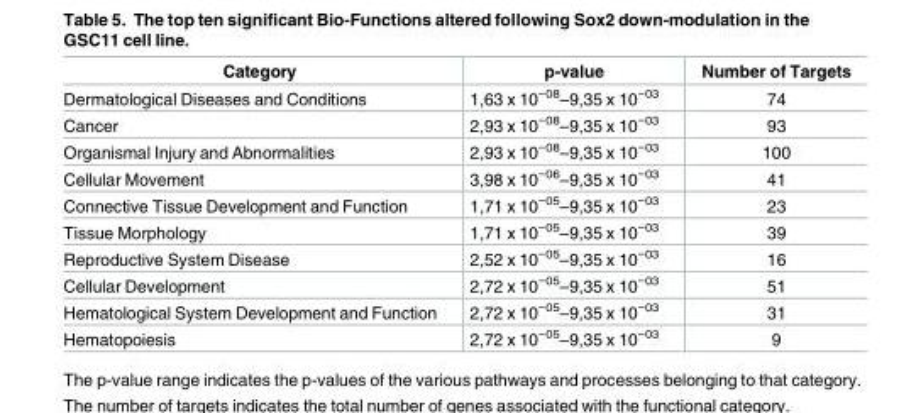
<table><thead><tr><td>Category</td><td>p-value</td><td>Number of Targets</td></tr></thead><tbody><tr><td>Dermatological Diseases and Conditions</td><td>1,63 x 10<sup>−08</sup>–9,35 x 10<sup>−03</sup></td><td>74</td></tr><tr><td>Cancer</td><td>2,93 x 10<sup>−08</sup>–9,35 x 10<sup>−03</sup></td><td>93</td></tr><tr><td>Organismal Injury and Abnormalities</td><td>2,93 x 10<sup>−08</sup>–9,35 x 10<sup>−03</sup></td><td>100</td></tr><tr><td>Cellular Movement</td><td>3,98 x 10<sup>−06</sup>–9,35 x 10<sup>−03</sup></td><td>41</td></tr><tr><td>Connective Tissue Development and Function</td><td>1,71 x 10<sup>−05</sup>–9,35 x 10<sup>−03</sup></td><td>23</td></tr><tr><td>Tissue Morphology</td><td>1,71 x 10<sup>−05</sup>–9,35 x 10<sup>−03</sup></td><td>39</td></tr><tr><td>Reproductive System Disease</td><td>2,52 x 10<sup>−05</sup>–9,35 x 10<sup>−03</sup></td><td>16</td></tr><tr><td>Cellular Development</td><td>2,72 x 10<sup>−05</sup>–9,35 x 10<sup>−03</sup></td><td>51</td></tr><tr><td>Hematological System Development and Function</td><td>2,72 x 10<sup>−05</sup>–9,35 x 10<sup>−03</sup></td><td>31</td></tr><tr><td>Hematopoiesis</td><td>2,72 x 10<sup>−05</sup>–9,35 x 10<sup>−03</sup></td><td>9</td></tr></tbody></table>